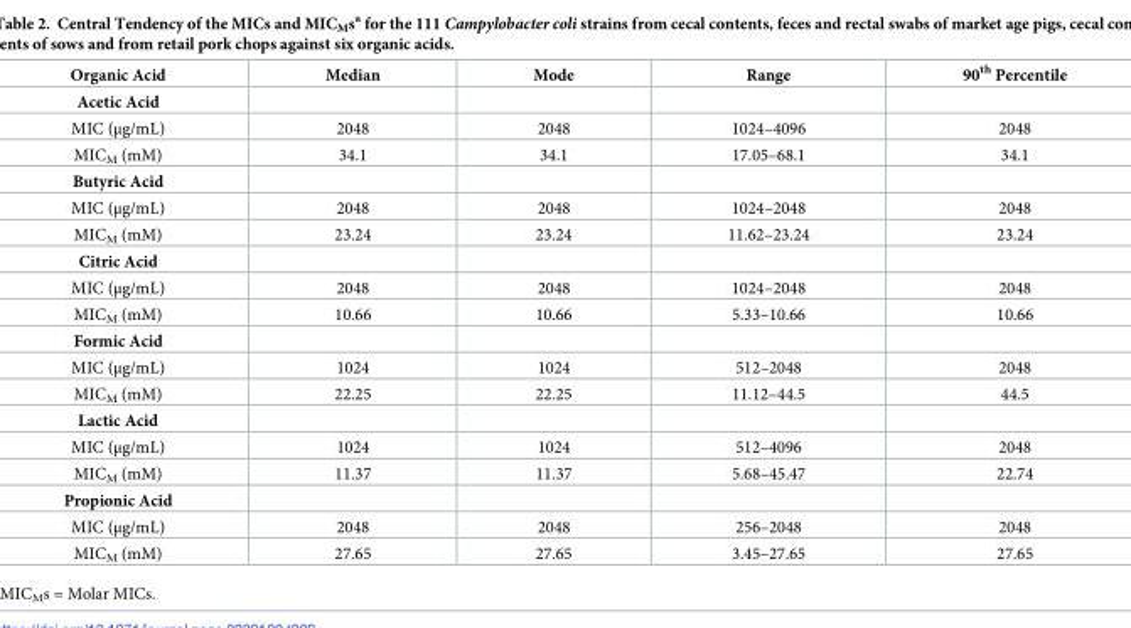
<table><thead><tr><td>Organic Acid</td><td>Median</td><td>Mode</td><td>Range</td><td>90<sup>th</sup> Percentile</td></tr></thead><tbody><tr><td colspan="5">Acetic Acid</td></tr><tr><td>MIC (μg/mL)</td><td>2048</td><td>2048</td><td>1024–4096</td><td>2048</td></tr><tr><td>MIC<sub>M</sub> (mM)</td><td>34.1</td><td>34.1</td><td>17.05–68.1</td><td>34.1</td></tr><tr><td colspan="5">Butyric Acid</td></tr><tr><td>MIC (μg/mL)</td><td>2048</td><td>2048</td><td>1024–2048</td><td>2048</td></tr><tr><td>MIC<sub>M</sub> (mM)</td><td>23.24</td><td>23.24</td><td>11.62–23.24</td><td>23.24</td></tr><tr><td colspan="5">Citric Acid</td></tr><tr><td>MIC (μg/mL)</td><td>2048</td><td>2048</td><td>1024–2048</td><td>2048</td></tr><tr><td>MIC<sub>M</sub> (mM)</td><td>10.66</td><td>10.66</td><td>5.33–10.66</td><td>10.66</td></tr><tr><td colspan="5">Formic Acid</td></tr><tr><td>MIC (μg/mL)</td><td>1024</td><td>1024</td><td>512–2048</td><td>2048</td></tr><tr><td>MIC<sub>M</sub> (mM)</td><td>22.25</td><td>22.25</td><td>11.12–44.5</td><td>44.5</td></tr><tr><td colspan="5">Lactic Acid</td></tr><tr><td>MIC (μg/mL)</td><td>1024</td><td>1024</td><td>512–4096</td><td>2048</td></tr><tr><td>MIC<sub>M</sub> (mM)</td><td>11.37</td><td>11.37</td><td>5.68–45.47</td><td>22.74</td></tr><tr><td colspan="5">Propionic Acid</td></tr><tr><td>MIC (μg/mL)</td><td>2048</td><td>2048</td><td>256–2048</td><td>2048</td></tr><tr><td>MIC<sub>M</sub> (mM)</td><td>27.65</td><td>27.65</td><td>3.45–27.65</td><td>27.65</td></tr></tbody></table>